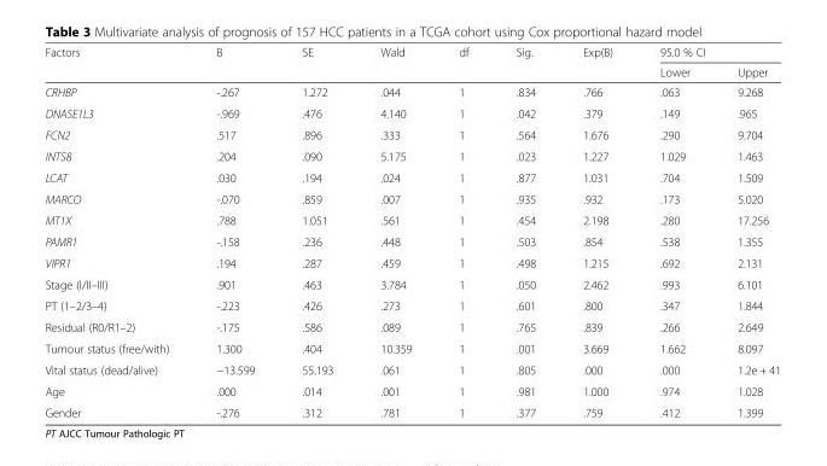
<table><thead><tr><td rowspan="2">Factors</td><td rowspan="2">B</td><td rowspan="2">SE</td><td rowspan="2">Wald</td><td rowspan="2">df</td><td rowspan="2">Sig.</td><td rowspan="2">Exp(B)</td><td colspan="2">95.0 % CI</td></tr><tr><td>Lower</td><td>Upper</td></tr></thead><tbody><tr><td>CRHBP</td><td>-.267</td><td>1.272</td><td>.044</td><td>1</td><td>.834</td><td>.766</td><td>.063</td><td>9.268</td></tr><tr><td>DNASE1L3</td><td>-.969</td><td>.476</td><td>4.140</td><td>1</td><td>.042</td><td>.379</td><td>.149</td><td>.965</td></tr><tr><td>FCN2</td><td>.517</td><td>.896</td><td>.333</td><td>1</td><td>.564</td><td>1.676</td><td>.290</td><td>9.704</td></tr><tr><td>INTS8</td><td>.204</td><td>.090</td><td>5.175</td><td>1</td><td>.023</td><td>1.227</td><td>1.029</td><td>1.463</td></tr><tr><td>LCAT</td><td>.030</td><td>.194</td><td>.024</td><td>1</td><td>.877</td><td>1.031</td><td>.704</td><td>1.509</td></tr><tr><td>MARCO</td><td>-.070</td><td>.859</td><td>.007</td><td>1</td><td>.935</td><td>.932</td><td>.173</td><td>5.020</td></tr><tr><td>MT1X</td><td>.788</td><td>1.051</td><td>.561</td><td>1</td><td>.454</td><td>2.198</td><td>.280</td><td>17.256</td></tr><tr><td>PAMR1</td><td>-.158</td><td>.236</td><td>.448</td><td>1</td><td>.503</td><td>.854</td><td>.538</td><td>1.355</td></tr><tr><td>VIPR1</td><td>.194</td><td>.287</td><td>.459</td><td>1</td><td>.498</td><td>1.215</td><td>.692</td><td>2.131</td></tr><tr><td>Stage (I/II–III)</td><td>.901</td><td>.463</td><td>3.784</td><td>1</td><td>.050</td><td>2.462</td><td>.993</td><td>6.101</td></tr><tr><td>PT (1–2/3–4)</td><td>-.223</td><td>.426</td><td>.273</td><td>1</td><td>.601</td><td>.800</td><td>.347</td><td>1.844</td></tr><tr><td>Residual (R0/R1–2)</td><td>-.175</td><td>.586</td><td>.089</td><td>1</td><td>.765</td><td>.839</td><td>.266</td><td>2.649</td></tr><tr><td>Tumour status (free/with)</td><td>1.300</td><td>.404</td><td>10.359</td><td>1</td><td>.001</td><td>3.669</td><td>1.662</td><td>8.097</td></tr><tr><td>Vital status (dead/alive)</td><td>−13.599</td><td>55.193</td><td>.061</td><td>1</td><td>.805</td><td>.000</td><td>.000</td><td>1.2e + 41</td></tr><tr><td>Age</td><td>.000</td><td>.014</td><td>.001</td><td>1</td><td>.981</td><td>1.000</td><td>.974</td><td>1.028</td></tr><tr><td>Gender</td><td>-.276</td><td>.312</td><td>.781</td><td>1</td><td>.377</td><td>.759</td><td>.412</td><td>1.399</td></tr></tbody></table>